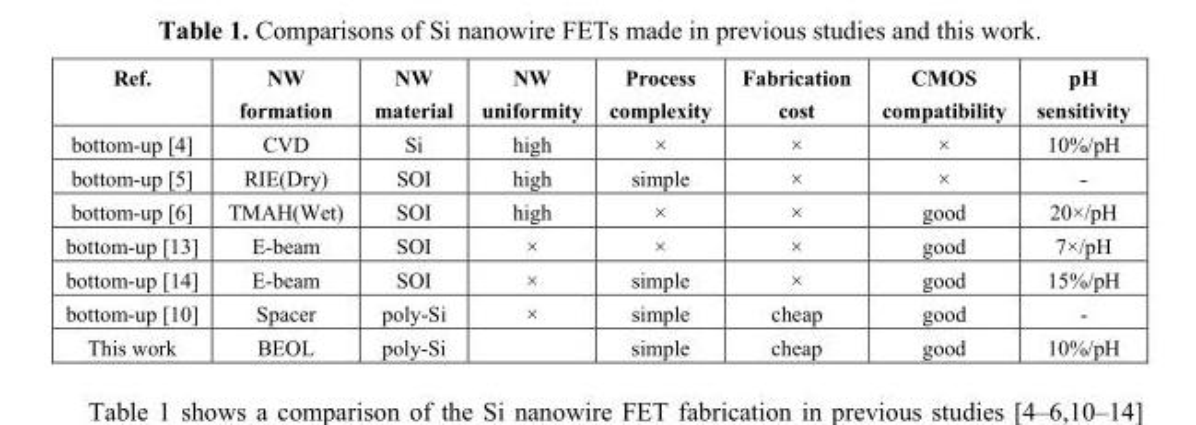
<table><thead><tr><td>Ref.</td><td>NW formation</td><td>NW material</td><td>NW uniformity</td><td>Process complexity</td><td>Fabrication cost</td><td>CMOS compatibility</td><td>pH sensitivity</td></tr></thead><tbody><tr><td>bottom-up [4]</td><td>CVD</td><td>Si</td><td>high</td><td>×</td><td>×</td><td>×</td><td>10%/pH</td></tr><tr><td>bottom-up [5]</td><td>RIE(Dry)</td><td>SOI</td><td>high</td><td>simple</td><td>×</td><td>×</td><td>-</td></tr><tr><td>bottom-up [6]</td><td>TMAH(Wet)</td><td>SOI</td><td>high</td><td>×</td><td>×</td><td>good</td><td>20×/pH</td></tr><tr><td>bottom-up [13]</td><td>E-beam</td><td>SOI</td><td>×</td><td>×</td><td>×</td><td>good</td><td>7×/pH</td></tr><tr><td>bottom-up [14]</td><td>E-beam</td><td>SOI</td><td>×</td><td>simple</td><td>×</td><td>good</td><td>15%/pH</td></tr><tr><td>bottom-up [10]</td><td>Spacer</td><td>poly-Si</td><td>×</td><td>simple</td><td>cheap</td><td>good</td><td>-</td></tr><tr><td>This work</td><td>BEOL</td><td>poly-Si</td><td></td><td>simple</td><td>cheap</td><td>good</td><td>10%/pH</td></tr></tbody></table>